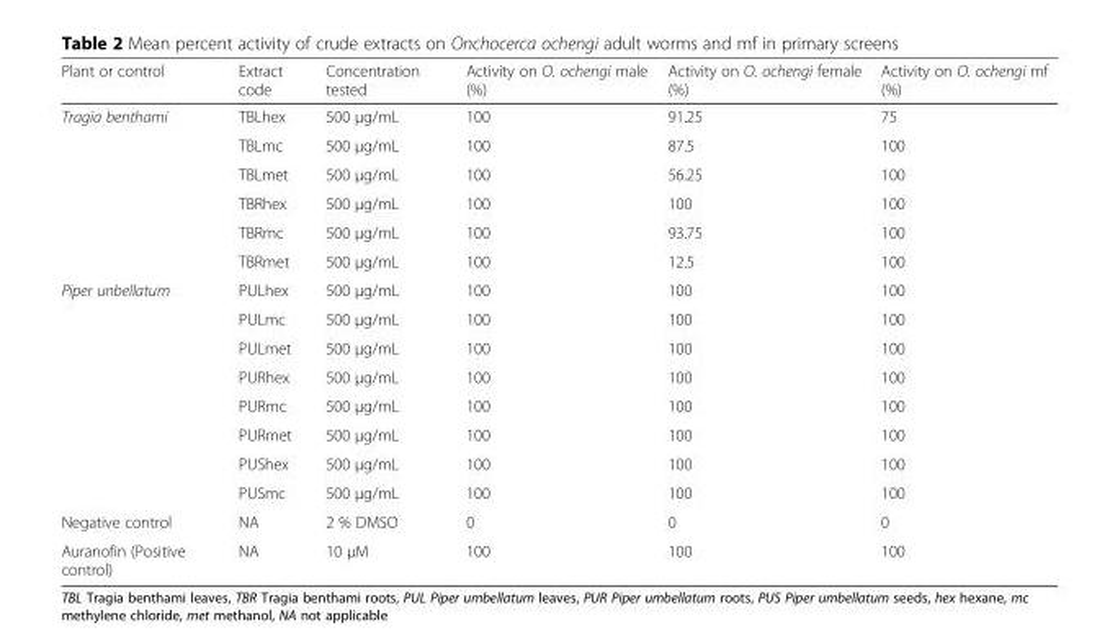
<table><thead><tr><td>Plant or control</td><td>Extract code</td><td>Concentration tested</td><td>Activity on O. ochengi male (%)</td><td>Activity on O. ochengi female (%)</td><td>Activity on O. ochengi mf (%)</td></tr></thead><tbody><tr><td rowspan="6">Tragia benthami</td><td>TBLhex</td><td>500 μg/mL</td><td>100</td><td>91.25</td><td>75</td></tr><tr><td>TBLmc</td><td>500 μg/mL</td><td>100</td><td>87.5</td><td>100</td></tr><tr><td>TBLmet</td><td>500 μg/mL</td><td>100</td><td>56.25</td><td>100</td></tr><tr><td>TBRhex</td><td>500 μg/mL</td><td>100</td><td>100</td><td>100</td></tr><tr><td>TBRmc</td><td>500 μg/mL</td><td>100</td><td>93.75</td><td>100</td></tr><tr><td>TBRmet</td><td>500 μg/mL</td><td>100</td><td>12.5</td><td>100</td></tr><tr><td rowspan="8">Piper unbellatum</td><td>PULhex</td><td>500 μg/mL</td><td>100</td><td>100</td><td>100</td></tr><tr><td>PULmc</td><td>500 μg/mL</td><td>100</td><td>100</td><td>100</td></tr><tr><td>PULmet</td><td>500 μg/mL</td><td>100</td><td>100</td><td>100</td></tr><tr><td>PURhex</td><td>500 μg/mL</td><td>100</td><td>100</td><td>100</td></tr><tr><td>PURmc</td><td>500 μg/mL</td><td>100</td><td>100</td><td>100</td></tr><tr><td>PURmet</td><td>500 μg/mL</td><td>100</td><td>100</td><td>100</td></tr><tr><td>PUShex</td><td>500 μg/mL</td><td>100</td><td>100</td><td>100</td></tr><tr><td>PUSmc</td><td>500 μg/mL</td><td>100</td><td>100</td><td>100</td></tr><tr><td>Negative control</td><td>NA</td><td>2 % DMSO</td><td>0</td><td>0</td><td>0</td></tr><tr><td>Auranofin (Positive control)</td><td>NA</td><td>10 μM</td><td>100</td><td>100</td><td>100</td></tr></tbody></table>